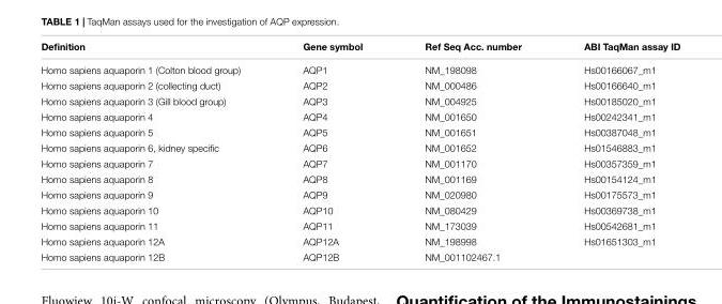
<table><thead><tr><td>Definition</td><td>Gene symbol</td><td>Ref Seq Acc. number</td><td>ABI TaqMan assay ID</td></tr></thead><tbody><tr><td>Homo sapiens aquaporin 1 (Colton blood group)</td><td>AQP1</td><td>NM_198098</td><td>Hs00166067_m1</td></tr><tr><td>Homo sapiens aquaporin 2 (collecting duct)</td><td>AQP2</td><td>NM_000486</td><td>Hs00166640_m1</td></tr><tr><td>Homo sapiens aquaporin 3 (Gill blood group)</td><td>AQP3</td><td>NM_004925</td><td>Hs00185020_m1</td></tr><tr><td>Homo sapiens aquaporin 4</td><td>AQP4</td><td>NM_001650</td><td>Hs00242341_m1</td></tr><tr><td>Homo sapiens aquaporin 5</td><td>AQP5</td><td>NM_001651</td><td>Hs00387048_m1</td></tr><tr><td>Homo sapiens aquaporin 6, kidney specific</td><td>AQP6</td><td>NM_001652</td><td>Hs01546883_m1</td></tr><tr><td>Homo sapiens aquaporin 7</td><td>AQP7</td><td>NM_001170</td><td>Hs00357359_m1</td></tr><tr><td>Homo sapiens aquaporin 8</td><td>AQP8</td><td>NM_001169</td><td>Hs00154124_m1</td></tr><tr><td>Homo sapiens aquaporin 9</td><td>AQP9</td><td>NM_020980</td><td>Hs00175573_m1</td></tr><tr><td>Homo sapiens aquaporin 10</td><td>AQP10</td><td>NM_080429</td><td>Hs00369738_m1</td></tr><tr><td>Homo sapiens aquaporin 11</td><td>AQP11</td><td>NM_173039</td><td>Hs00542681_m1</td></tr><tr><td>Homo sapiens aquaporin 12A</td><td>AQP12A</td><td>NM_198998</td><td>Hs01651303_m1</td></tr><tr><td>Homo sapiens aquaporin 12B</td><td>AQP12B</td><td>NM_001102467.1</td><td></td></tr></tbody></table>